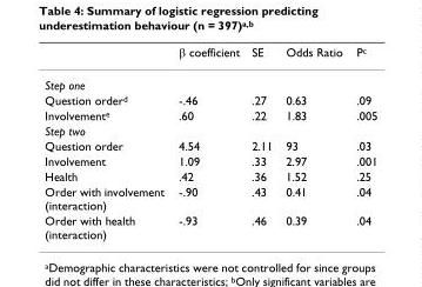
<table><thead><tr><td></td><td>β coefficient</td><td>SE</td><td>Odds Ratio</td><td>P<sup>c</sup></td></tr></thead><tbody><tr><td colspan="5">Step one</td></tr><tr><td>Question order<sup>d</sup></td><td>-.46</td><td>.27</td><td>0.63</td><td>.09</td></tr><tr><td>Involvement<sup>e</sup></td><td>.60</td><td>.22</td><td>1.83</td><td>.005</td></tr><tr><td colspan="5">Step two</td></tr><tr><td>Question order</td><td>4.54</td><td>2.11</td><td>93</td><td>.03</td></tr><tr><td>Involvement</td><td>1.09</td><td>.33</td><td>2.97</td><td>.001</td></tr><tr><td>Health</td><td>.42</td><td>.36</td><td>1.52</td><td>.25</td></tr><tr><td>Order with involvement (interaction)</td><td>-.90</td><td>.43</td><td>0.41</td><td>.04</td></tr><tr><td>Order with health (interaction)</td><td>-.93</td><td>.46</td><td>0.39</td><td>.04</td></tr></tbody></table>